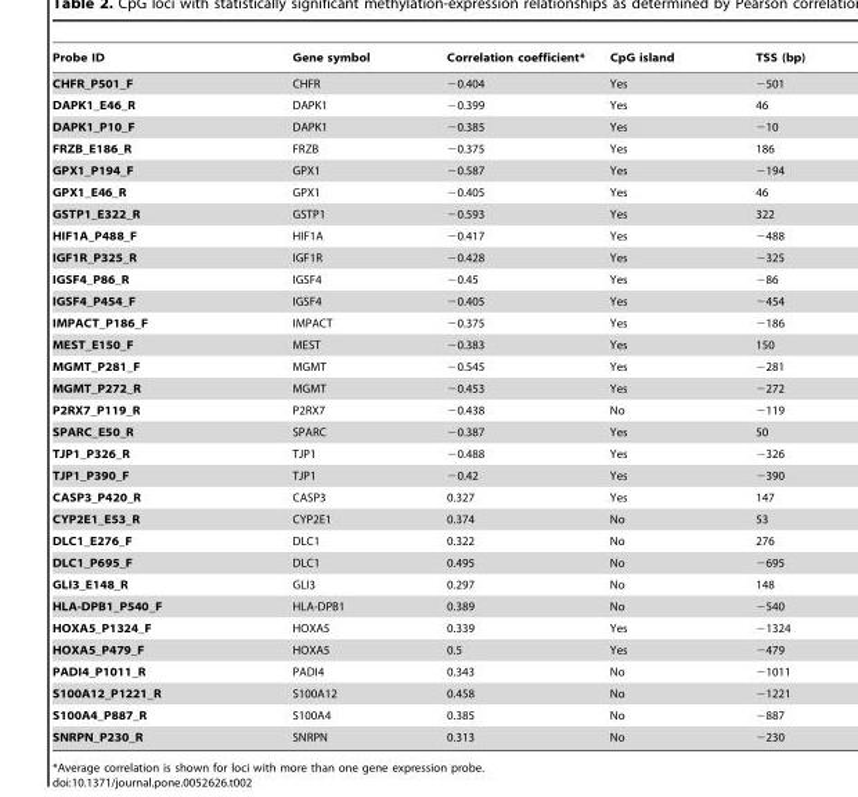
<table><thead><tr><td>Probe ID</td><td>Gene symbol</td><td>Correlation coefficient*</td><td>CpG island</td><td>TSS (bp)</td></tr></thead><tbody><tr><td>CHFR_P501_F</td><td>CHFR</td><td>−0.404</td><td>Yes</td><td>−501</td></tr><tr><td>DAPK1_E46_R</td><td>DAPK1</td><td>−0.399</td><td>Yes</td><td>46</td></tr><tr><td>DAPK1_P10_F</td><td>DAPK1</td><td>−0.385</td><td>Yes</td><td>−10</td></tr><tr><td>FRZB_E186_R</td><td>FRZB</td><td>−0.375</td><td>Yes</td><td>186</td></tr><tr><td>GPX1_P194_F</td><td>GPX1</td><td>−0.587</td><td>Yes</td><td>−194</td></tr><tr><td>GPX1_E46_R</td><td>GPX1</td><td>−0.405</td><td>Yes</td><td>46</td></tr><tr><td>GSTP1_E322_R</td><td>GSTP1</td><td>−0.593</td><td>Yes</td><td>322</td></tr><tr><td>HIF1A_P488_F</td><td>HIF1A</td><td>−0.417</td><td>Yes</td><td>−488</td></tr><tr><td>IGF1R_P325_R</td><td>IGF1R</td><td>−0.428</td><td>Yes</td><td>−325</td></tr><tr><td>IGSF4_P86_R</td><td>IGSF4</td><td>−0.45</td><td>Yes</td><td>−86</td></tr><tr><td>IGSF4_P454_F</td><td>IGSF4</td><td>−0.405</td><td>Yes</td><td>−454</td></tr><tr><td>IMPACT_P186_F</td><td>IMPACT</td><td>−0.375</td><td>Yes</td><td>−186</td></tr><tr><td>MEST_E150_F</td><td>MEST</td><td>−0.383</td><td>Yes</td><td>150</td></tr><tr><td>MGMT_P281_F</td><td>MGMT</td><td>−0.545</td><td>Yes</td><td>−281</td></tr><tr><td>MGMT_P272_R</td><td>MGMT</td><td>−0.453</td><td>Yes</td><td>−272</td></tr><tr><td>P2RX7_P119_R</td><td>P2RX7</td><td>−0.438</td><td>No</td><td>−119</td></tr><tr><td>SPARC_E50_R</td><td>SPARC</td><td>−0.387</td><td>Yes</td><td>50</td></tr><tr><td>TJP1_P326_R</td><td>TJP1</td><td>−0.488</td><td>Yes</td><td>−326</td></tr><tr><td>TJP1_P390_F</td><td>TJP1</td><td>−0.42</td><td>Yes</td><td>−390</td></tr><tr><td>CASP3_P420_R</td><td>CASP3</td><td>0.327</td><td>Yes</td><td>147</td></tr><tr><td>CYP2E1_E53_R</td><td>CYP2E1</td><td>0.374</td><td>No</td><td>53</td></tr><tr><td>DLC1_E276_F</td><td>DLC1</td><td>0.322</td><td>No</td><td>276</td></tr><tr><td>DLC1_P695_F</td><td>DLC1</td><td>0.495</td><td>No</td><td>−695</td></tr><tr><td>GLI3_E148_R</td><td>GLI3</td><td>0.297</td><td>No</td><td>148</td></tr><tr><td>HLA-DPB1_P540_F</td><td>HLA-DPB1</td><td>0.389</td><td>No</td><td>−540</td></tr><tr><td>HOXA5_P1324_F</td><td>HOXA5</td><td>0.339</td><td>Yes</td><td>−1324</td></tr><tr><td>HOXA5_P479_F</td><td>HOXA5</td><td>0.5</td><td>Yes</td><td>−479</td></tr><tr><td>PADI4_P1011_R</td><td>PADI4</td><td>0.343</td><td>No</td><td>−1011</td></tr><tr><td>S100A12_P1221_R</td><td>S100A12</td><td>0.458</td><td>No</td><td>−1221</td></tr><tr><td>S100A4_P887_R</td><td>S100A4</td><td>0.385</td><td>No</td><td>−887</td></tr><tr><td>SNRPN_P230_R</td><td>SNRPN</td><td>0.313</td><td>No</td><td>−230</td></tr></tbody></table>